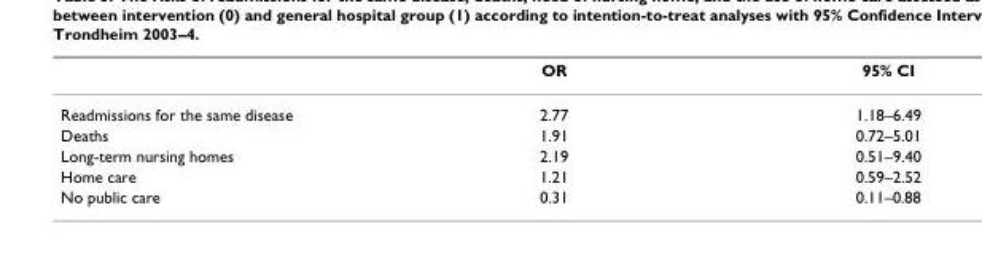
<table><thead><tr><td></td><td>OR</td><td>95% CI</td></tr></thead><tbody><tr><td>Readmissions for the same disease</td><td>2.77</td><td>1.18–6.49</td></tr><tr><td>Deaths</td><td>1.91</td><td>0.72–5.01</td></tr><tr><td>Long-term nursing homes</td><td>2.19</td><td>0.51–9.40</td></tr><tr><td>Home care</td><td>1.21</td><td>0.59–2.52</td></tr><tr><td>No public care</td><td>0.31</td><td>0.11–0.88</td></tr></tbody></table>